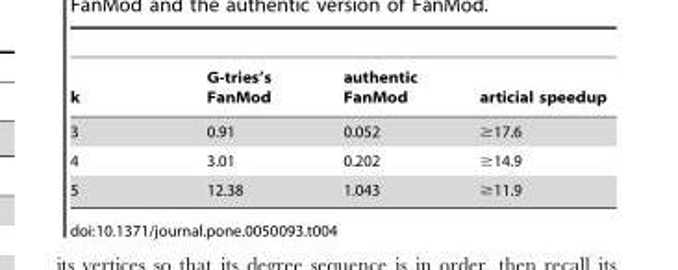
<table><thead><tr><td>k</td><td>G-tries’s FanMod</td><td>authentic FanMod</td><td>articial speedup</td></tr></thead><tbody><tr><td>3</td><td>0.91</td><td>0.052</td><td>≥17.6</td></tr><tr><td>4</td><td>3.01</td><td>0.202</td><td>≥14.9</td></tr><tr><td>5</td><td>12.38</td><td>1.043</td><td>≥11.9</td></tr></tbody></table>